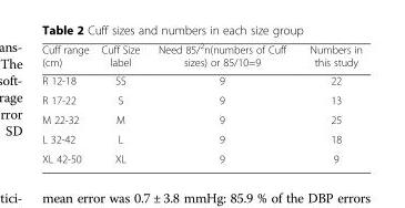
<table><thead><tr><td>Cuff range (cm)</td><td>Cuff Size label</td><td>Need 85/<sup>2</sup>n(numbers of Cuff sizes) or 85/10=9</td><td>Numbers in this study</td></tr></thead><tbody><tr><td>R 12-18</td><td>SS</td><td>9</td><td>22</td></tr><tr><td>R 17-22</td><td>S</td><td>9</td><td>13</td></tr><tr><td>M 22-32</td><td>M</td><td>9</td><td>25</td></tr><tr><td>L 32-42</td><td>L</td><td>9</td><td>18</td></tr><tr><td>XL 42-50</td><td>XL</td><td>9</td><td>9</td></tr></tbody></table>